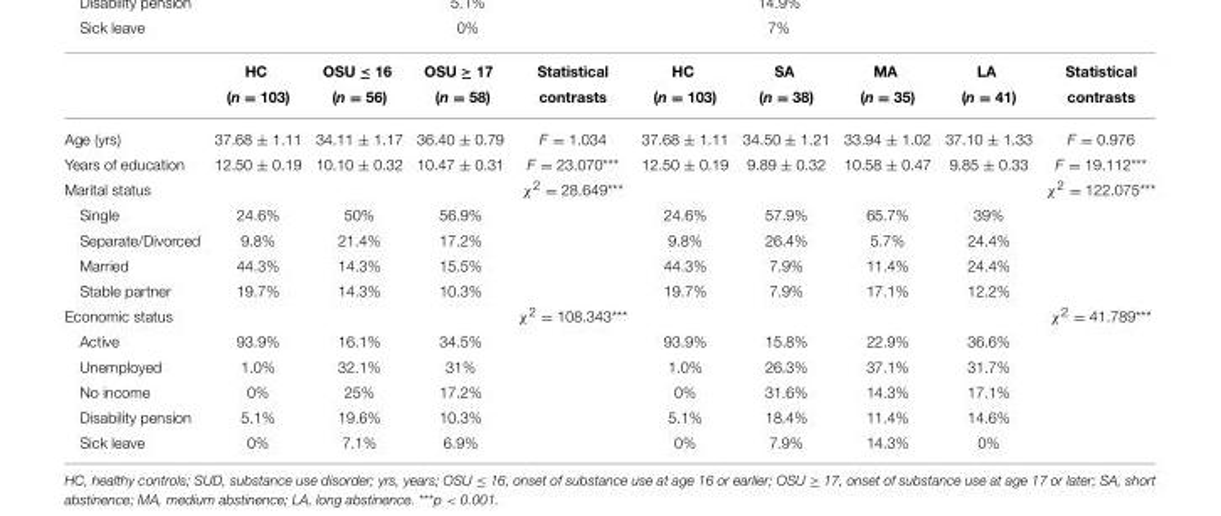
<table><thead><tr><td></td><td>HC (n = 103)</td><td>OSU ≤ 16 (n = 56)</td><td>OSU ≥ 17 (n = 58)</td><td>Statistical contrasts</td><td>HC (n = 103)</td><td>SA (n = 38)</td><td>MA (n = 35)</td><td>LA (n = 41)</td><td>Statistical contrasts</td></tr></thead><tbody><tr><td>Age (yrs)</td><td>37.68 ± 1.11</td><td>34.11 ± 1.17</td><td>36.40 ± 0.79</td><td>F = 1.034</td><td>37.68 ± 1.11</td><td>34.50 ± 1.21</td><td>33.94 ± 1.02</td><td>37.10 ± 1.33</td><td>F = 0.976</td></tr><tr><td>Years of education</td><td>12.50 ± 0.19</td><td>10.10 ± 0.32</td><td>10.47 ± 0.31</td><td>F = 23.070***</td><td>12.50 ± 0.19</td><td>9.89 ± 0.32</td><td>10.58 ± 0.47</td><td>9.85 ± 0.33</td><td>F = 19.112***</td></tr><tr><td>Marital status</td><td></td><td></td><td></td><td>χ<sup>2</sup> = 28.649***</td><td></td><td></td><td></td><td></td><td>χ<sup>2</sup> = 122.075***</td></tr><tr><td>Single</td><td>24.6%</td><td>50%</td><td>56.9%</td><td></td><td>24.6%</td><td>57.9%</td><td>65.7%</td><td>39%</td><td></td></tr><tr><td>Separate/Divorced</td><td>9.8%</td><td>21.4%</td><td>17.2%</td><td></td><td>9.8%</td><td>26.4%</td><td>5.7%</td><td>24.4%</td><td></td></tr><tr><td>Married</td><td>44.3%</td><td>14.3%</td><td>15.5%</td><td></td><td>44.3%</td><td>7.9%</td><td>11.4%</td><td>24.4%</td><td></td></tr><tr><td>Stable partner</td><td>19.7%</td><td>14.3%</td><td>10.3%</td><td></td><td>19.7%</td><td>7.9%</td><td>17.1%</td><td>12.2%</td><td></td></tr><tr><td>Economic status</td><td></td><td></td><td></td><td>χ<sup>2</sup> = 108.343***</td><td></td><td></td><td></td><td></td><td>χ<sup>2</sup> = 41.789***</td></tr><tr><td>Active</td><td>93.9%</td><td>16.1%</td><td>34.5%</td><td></td><td>93.9%</td><td>15.8%</td><td>22.9%</td><td>36.6%</td><td></td></tr><tr><td>Unemployed</td><td>1.0%</td><td>32.1%</td><td>31%</td><td></td><td>1.0%</td><td>26.3%</td><td>37.1%</td><td>31.7%</td><td></td></tr><tr><td>No income</td><td>0%</td><td>25%</td><td>17.2%</td><td></td><td>0%</td><td>31.6%</td><td>14.3%</td><td>17.1%</td><td></td></tr><tr><td>Disability pension</td><td>5.1%</td><td>19.6%</td><td>10.3%</td><td></td><td>5.1%</td><td>18.4%</td><td>11.4%</td><td>14.6%</td><td></td></tr><tr><td>Sick leave</td><td>0%</td><td>7.1%</td><td>6.9%</td><td></td><td>0%</td><td>7.9%</td><td>14.3%</td><td>0%</td><td></td></tr></tbody></table>